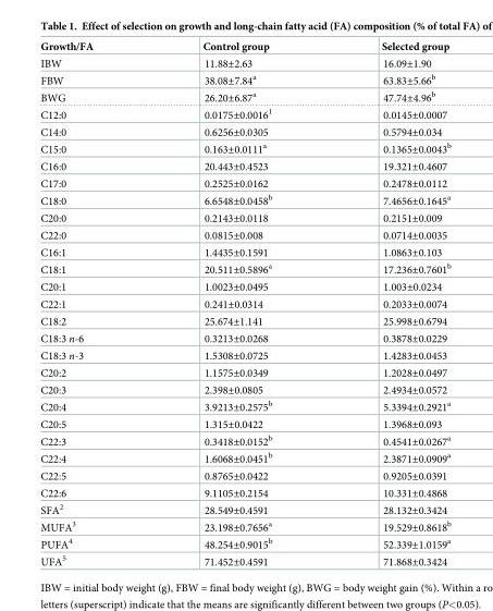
<table><thead><tr><td>Growth/FA</td><td>Control group</td><td>Selected group</td></tr></thead><tbody><tr><td>IBW</td><td>11.88±2.63</td><td>16.09±1.90</td></tr><tr><td>FBW</td><td>38.08±7.84<sup>a</sup></td><td>63.83±5.66<sup>b</sup></td></tr><tr><td>BWG</td><td>26.20±6.87<sup>a</sup></td><td>47.74±4.96<sup>b</sup></td></tr><tr><td>C12:0</td><td>0.0175±0.0016<sup>1</sup></td><td>0.0145±0.0007</td></tr><tr><td>C14:0</td><td>0.6256±0.0305</td><td>0.5794±0.034</td></tr><tr><td>C15:0</td><td>0.163±0.0111<sup>a</sup></td><td>0.1365±0.0043<sup>b</sup></td></tr><tr><td>C16:0</td><td>20.443±0.4523</td><td>19.321±0.4607</td></tr><tr><td>C17:0</td><td>0.2525±0.0162</td><td>0.2478±0.0112</td></tr><tr><td>C18:0</td><td>6.6548±0.0458<sup>b</sup></td><td>7.4656±0.1645<sup>a</sup></td></tr><tr><td>C20:0</td><td>0.2143±0.0118</td><td>0.2151±0.009</td></tr><tr><td>C22:0</td><td>0.0815±0.008</td><td>0.0714±0.0035</td></tr><tr><td>C16:1</td><td>1.4435±0.1591</td><td>1.0863±0.103</td></tr><tr><td>C18:1</td><td>20.511±0.5896<sup>a</sup></td><td>17.236±0.7601<sup>b</sup></td></tr><tr><td>C20:1</td><td>1.0023±0.0495</td><td>1.003±0.0234</td></tr><tr><td>C22:1</td><td>0.241±0.0314</td><td>0.2033±0.0074</td></tr><tr><td>C18:2</td><td>25.674±1.141</td><td>25.998±0.6794</td></tr><tr><td>C18:3 n-6</td><td>0.3213±0.0268</td><td>0.3878±0.0229</td></tr><tr><td>C18:3 n-3</td><td>1.5308±0.0725</td><td>1.4283±0.0453</td></tr><tr><td>C20:2</td><td>1.1575±0.0349</td><td>1.2028±0.0497</td></tr><tr><td>C20:3</td><td>2.398±0.0805</td><td>2.4934±0.0572</td></tr><tr><td>C20:4</td><td>3.9213±0.2575<sup>b</sup></td><td>5.3394±0.2921<sup>a</sup></td></tr><tr><td>C20:5</td><td>1.315±0.0422</td><td>1.3968±0.093</td></tr><tr><td>C22:3</td><td>0.3418±0.0152<sup>b</sup></td><td>0.4541±0.0267<sup>a</sup></td></tr><tr><td>C22:4</td><td>1.6068±0.0451<sup>b</sup></td><td>2.3871±0.0909<sup>a</sup></td></tr><tr><td>C22:5</td><td>0.8765±0.0422</td><td>0.9205±0.0391</td></tr><tr><td>C22:6</td><td>9.1105±0.2154</td><td>10.331±0.4868</td></tr><tr><td>SFA<sup>2</sup></td><td>28.549±0.4591</td><td>28.132±0.3424</td></tr><tr><td>MUFA<sup>3</sup></td><td>23.198±0.7656<sup>a</sup></td><td>19.529±0.8618<sup>b</sup></td></tr><tr><td>PUFA<sup>4</sup></td><td>48.254±0.9015<sup>b</sup></td><td>52.339±1.0159<sup>a</sup></td></tr><tr><td>UFA<sup>5</sup></td><td>71.452±0.4591</td><td>71.868±0.3424</td></tr></tbody></table>